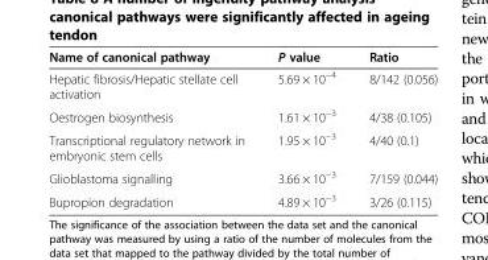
<table><thead><tr><td>Name of canonical pathway</td><td>P value</td><td>Ratio</td></tr></thead><tbody><tr><td>Hepatic fibrosis/Hepatic stellate cell activation</td><td>5.69 × 10<sup>−4</sup></td><td>8/142 (0.056)</td></tr><tr><td>Oestrogen biosynthesis</td><td>1.61 × 10<sup>−3</sup></td><td>4/38 (0.105)</td></tr><tr><td>Transcriptional regulatory network in embryonic stem cells</td><td>1.95 × 10<sup>−3</sup></td><td>4/40 (0.1)</td></tr><tr><td>Glioblastoma signalling</td><td>3.66 × 10<sup>−3</sup></td><td>7/159 (0.044)</td></tr><tr><td>Bupropion degradation</td><td>4.89 × 10<sup>−3</sup></td><td>3/26 (0.115)</td></tr></tbody></table>